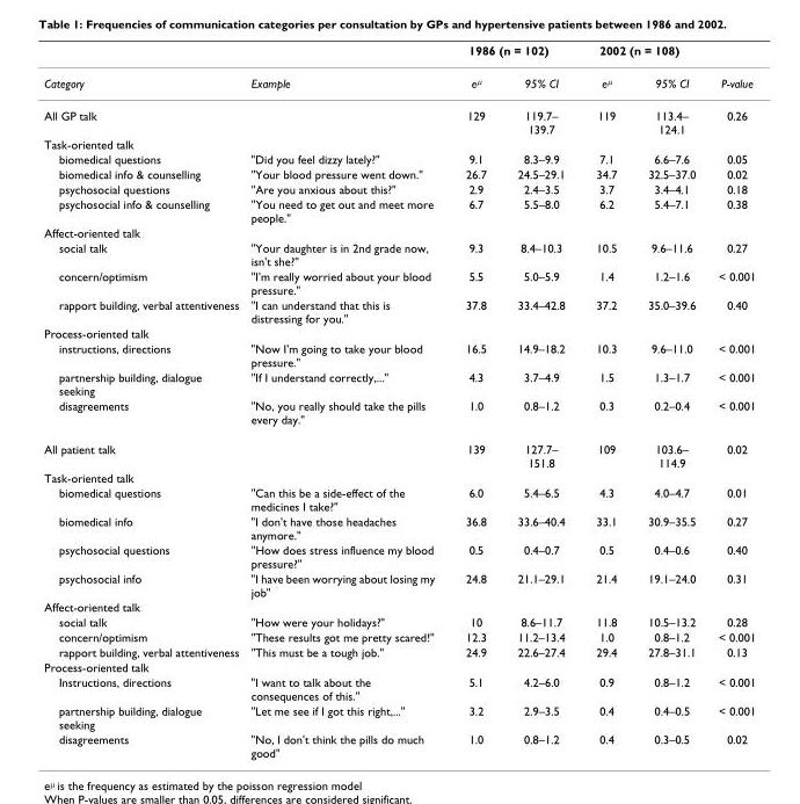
<table><thead><tr><td rowspan="2">Category</td><td rowspan="2">Example</td><td colspan="2">1986 (n = 102)</td><td colspan="2">2002 (n = 108)</td><td rowspan="2">P-value</td></tr><tr><td>e<sup>μ</sup></td><td>95% CI</td><td>e<sup>μ</sup></td><td>95% CI</td></tr></thead><tbody><tr><td>All GP talk</td><td></td><td>129</td><td>119.7– 139.7</td><td>119</td><td>113.4– 124.1</td><td>0.26</td></tr><tr><td colspan="7">Task-oriented talk</td></tr><tr><td>biomedical questions</td><td>&quot;Did you feel dizzy lately?&quot;</td><td>9.1</td><td>8.3–9.9</td><td>7.1</td><td>6.6–7.6</td><td>0.05</td></tr><tr><td>biomedical info &amp; counselling</td><td>&quot;Your blood pressure went down.&quot;</td><td>26.7</td><td>24.5–29.1</td><td>34.7</td><td>32.5–37.0</td><td>0.02</td></tr><tr><td>psychosocial questions</td><td>&quot;Are you anxious about this?&quot;</td><td>2.9</td><td>2.4–3.5</td><td>3.7</td><td>3.4–4.1</td><td>0.18</td></tr><tr><td>psychosocial info &amp; counselling</td><td>&quot;You need to get out and meet more people.&quot;</td><td>6.7</td><td>5.5–8.0</td><td>6.2</td><td>5.4–7.1</td><td>0.38</td></tr><tr><td colspan="7">Affect-oriented talk</td></tr><tr><td>social talk</td><td>&quot;Your daughter is in 2nd grade now, isn&#x27;t she?&quot;</td><td>9.3</td><td>8.4–10.3</td><td>10.5</td><td>9.6–11.6</td><td>0.27</td></tr><tr><td>concern/optimism</td><td>&quot;I&#x27;m really worried about your blood pressure.&quot;</td><td>5.5</td><td>5.0–5.9</td><td>1.4</td><td>1.2–1.6</td><td>&lt; 0.001</td></tr><tr><td>rapport building, verbal attentiveness</td><td>&quot;I can understand that this is distressing for you.&quot;</td><td>37.8</td><td>33.4–42.8</td><td>37.2</td><td>35.0–39.6</td><td>0.40</td></tr><tr><td colspan="7">Process-oriented talk</td></tr><tr><td>instructions, directions</td><td>&quot;Now I&#x27;m going to take your blood pressure.&quot;</td><td>16.5</td><td>14.9–18.2</td><td>10.3</td><td>9.6–11.0</td><td>&lt; 0.001</td></tr><tr><td>partnership building, dialogue seeking</td><td>&quot;If I understand correctly,...&quot;</td><td>4.3</td><td>3.7–4.9</td><td>1.5</td><td>1.3–1.7</td><td>&lt; 0.001</td></tr><tr><td>disagreements</td><td>&quot;No, you really should take the pills every day.&quot;</td><td>1.0</td><td>0.8–1.2</td><td>0.3</td><td>0.2–0.4</td><td>&lt; 0.001</td></tr><tr><td>All patient talk</td><td></td><td>139</td><td>127.7– 151.8</td><td>109</td><td>103.6– 114.9</td><td>0.02</td></tr><tr><td colspan="7">Task-oriented talk</td></tr><tr><td>biomedical questions</td><td>&quot;Can this be a side-effect of the medicines I take?&quot;</td><td>6.0</td><td>5.4–6.5</td><td>4.3</td><td>4.0–4.7</td><td>0.01</td></tr><tr><td>biomedical info</td><td>&quot;I don&#x27;t have those headaches anymore.&quot;</td><td>36.8</td><td>33.6–40.4</td><td>33.1</td><td>30.9–35.5</td><td>0.27</td></tr><tr><td>psychosocial questions</td><td>&quot;How does stress influence my blood pressure?&quot;</td><td>0.5</td><td>0.4–0.7</td><td>0.5</td><td>0.4–0.6</td><td>0.40</td></tr><tr><td>psychosocial info</td><td>&quot;I have been worrying about losing my job&quot;</td><td>24.8</td><td>21.1–29.1</td><td>21.4</td><td>19.1–24.0</td><td>0.31</td></tr><tr><td colspan="7">Affect-oriented talk</td></tr><tr><td>social talk</td><td>&quot;How were your holidays?&quot;</td><td>10</td><td>8.6–11.7</td><td>11.8</td><td>10.5–13.2</td><td>0.28</td></tr><tr><td>concern/optimism</td><td>&quot;These results got me pretty scared!&quot;</td><td>12.3</td><td>11.2–13.4</td><td>1.0</td><td>0.8–1.2</td><td>&lt; 0.001</td></tr><tr><td>rapport building, verbal attentiveness</td><td>&quot;This must be a tough job.&quot;</td><td>24.9</td><td>22.6–27.4</td><td>29.4</td><td>27.8–31.1</td><td>0.13</td></tr><tr><td colspan="7">Process-oriented talk</td></tr><tr><td>Instructions, directions</td><td>&quot;I want to talk about the consequences of this.&quot;</td><td>5.1</td><td>4.2–6.0</td><td>0.9</td><td>0.8–1.2</td><td>&lt; 0.001</td></tr><tr><td>partnership building, dialogue seeking</td><td>&quot;Let me see if I got this right,...&quot;</td><td>3.2</td><td>2.9–3.5</td><td>0.4</td><td>0.4–0.5</td><td>&lt; 0.001</td></tr><tr><td>disagreements</td><td>&quot;No, I don&#x27;t think the pills do much good&quot;</td><td>1.0</td><td>0.8–1.2</td><td>0.4</td><td>0.3–0.5</td><td>0.02</td></tr></tbody></table>